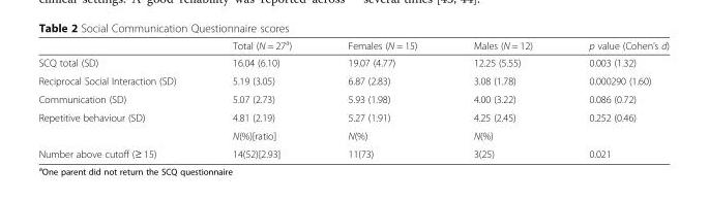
<table><thead><tr><td></td><td>Total (N = 27<sup>a</sup>)</td><td>Females (N = 15)</td><td>Males (N = 12)</td><td>p value (Cohen’s d)</td></tr></thead><tbody><tr><td>SCQ total (SD)</td><td>16.04 (6.10)</td><td>19.07 (4.77)</td><td>12.25 (5.55)</td><td>0.003 (1.32)</td></tr><tr><td>Reciprocal Social Interaction (SD)</td><td>5.19 (3.05)</td><td>6.87 (2.83)</td><td>3.08 (1.78)</td><td>0.000290 (1.60)</td></tr><tr><td>Communication (SD)</td><td>5.07 (2.73)</td><td>5.93 (1.98)</td><td>4.00 (3.22)</td><td>0.086 (0.72)</td></tr><tr><td rowspan="2">Repetitive behaviour (SD)</td><td>4.81 (2.19)</td><td>5.27 (1.91)</td><td>4.25 (2.45)</td><td>0.252 (0.46)</td></tr><tr><td>N(%)[ratio]</td><td>N(%)</td><td>N(%)</td><td></td></tr><tr><td>Number above cutoff (≥ 15)</td><td>14(52)[2.93]</td><td>11(73)</td><td>3(25)</td><td>0.021</td></tr></tbody></table>